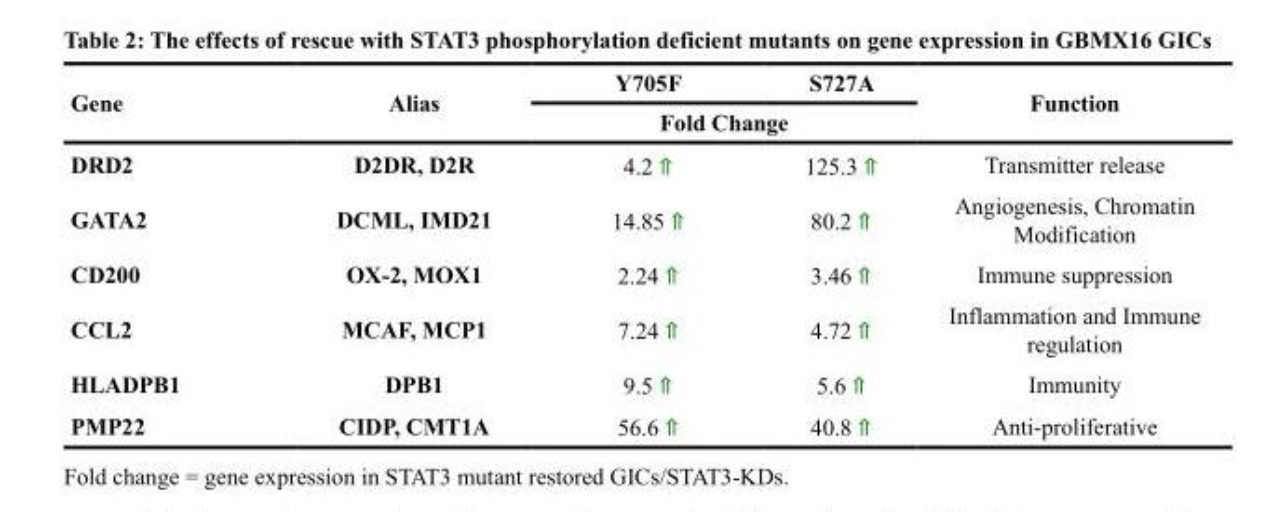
<table><thead><tr><td rowspan="2">Gene</td><td rowspan="2">Alias</td><td>Y705F</td><td>S727A</td><td rowspan="2">Function</td></tr><tr><td colspan="2">Fold Change</td></tr></thead><tbody><tr><td>DRD2</td><td>D2DR, D2R</td><td>4.2 ⇑</td><td>125.3 ⇑</td><td>Transmitter release</td></tr><tr><td>GATA2</td><td>DCML, IMD21</td><td>14.85 ⇑</td><td>80.2 ⇑</td><td>Angiogenesis, Chromatin Modification</td></tr><tr><td>CD200</td><td>OX-2, MOX1</td><td>2.24 ⇑</td><td>3.46 ⇑</td><td>Immune suppression</td></tr><tr><td>CCL2</td><td>MCAF, MCP1</td><td>7.24 ⇑</td><td>4.72 ⇑</td><td>Inflammation and Immune regulation</td></tr><tr><td>HLADPB1</td><td>DPB1</td><td>9.5 ⇑</td><td>5.6 ⇑</td><td>Immunity</td></tr><tr><td>PMP22</td><td>CIDP, CMT1A</td><td>56.6 ⇑</td><td>40.8 ⇑</td><td>Anti-proliferative</td></tr></tbody></table>